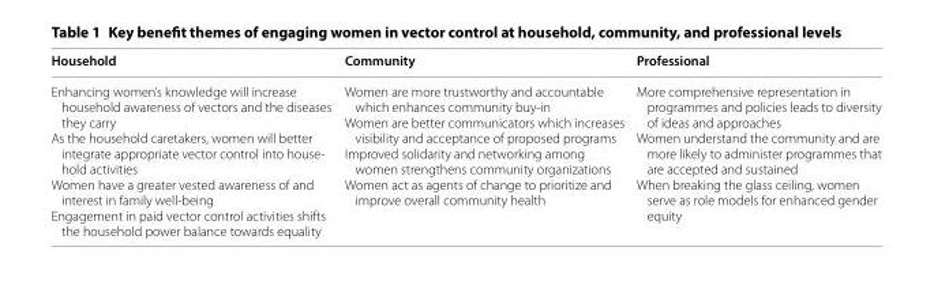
<table><thead><tr><td>Household</td><td>Community</td><td>Professional</td></tr></thead><tbody><tr><td>Enhancing women’s knowledge will increase household awareness of vectors and the diseases they carry As the household caretakers, women will better integrate appropriate vector control into house- hold activities Women have a greater vested awareness of and interest in family well-being Engagement in paid vector control activities shifts the household power balance towards equality</td><td>Women are more trustworthy and accountable which enhances community buy-in Women are better communicators which increases visibility and acceptance of proposed programs Improved solidarity and networking among women strengthens community organizations Women act as agents of change to prioritize and improve overall community health</td><td>More comprehensive representation in programmes and policies leads to diversity of ideas and approaches Women understand the community and are more likely to administer programmes that are accepted and sustained When breaking the glass ceiling, women serve as role models for enhanced gender equity</td></tr></tbody></table>